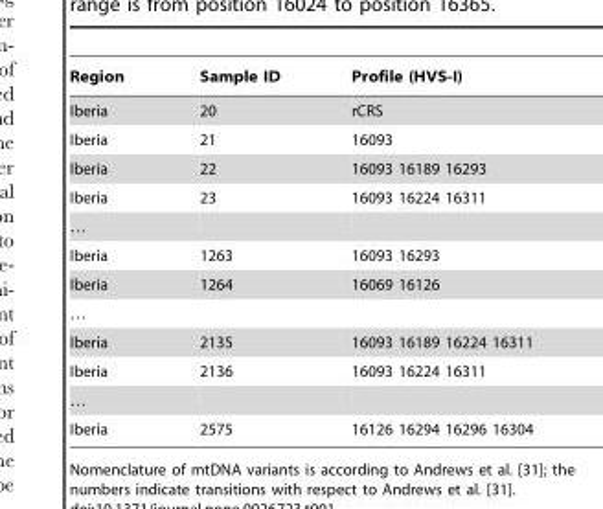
<table><thead><tr><td>Region</td><td>Sample ID</td><td>Profile (HVS-I)</td></tr></thead><tbody><tr><td>Iberia</td><td>20</td><td>rCRS</td></tr><tr><td>Iberia</td><td>21</td><td>16093</td></tr><tr><td>Iberia</td><td>22</td><td>16093 16189 16293</td></tr><tr><td>Iberia</td><td>23</td><td>16093 16224 16311</td></tr><tr><td colspan="3">…</td></tr><tr><td>Iberia</td><td>1263</td><td>16093 16293</td></tr><tr><td>Iberia</td><td>1264</td><td>16069 16126</td></tr><tr><td colspan="3">…</td></tr><tr><td>Iberia</td><td>2135</td><td>16093 16189 16224 16311</td></tr><tr><td>Iberia</td><td>2136</td><td>16093 16224 16311</td></tr><tr><td colspan="3">…</td></tr><tr><td>Iberia</td><td>2575</td><td>16126 16294 16296 16304</td></tr></tbody></table>